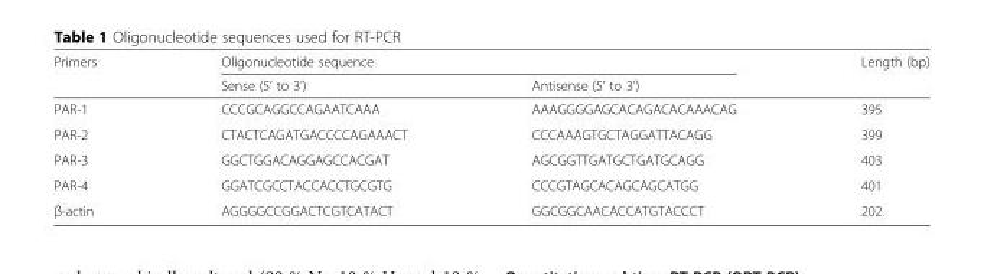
<table><thead><tr><td rowspan="2">Primers</td><td colspan="2">Oligonucleotide sequence</td><td rowspan="2">Length (bp)</td></tr><tr><td>Sense (5’ to 3’)</td><td>Antisense (5’ to 3’)</td></tr></thead><tbody><tr><td>PAR-1</td><td>CCCGCAGGCCAGAATCAAA</td><td>AAAGGGGAGCACAGACACAAACAG</td><td>395</td></tr><tr><td>PAR-2</td><td>CTACTCAGATGACCCCAGAAACT</td><td>CCCAAAGTGCTAGGATTACAGG</td><td>399</td></tr><tr><td>PAR-3</td><td>GGCTGGACAGGAGCCACGAT</td><td>AGCGGTTGATGCTGATGCAGG</td><td>403</td></tr><tr><td>PAR-4</td><td>GGATCGCCTACCACCTGCGTG</td><td>CCCGTAGCACAGCAGCATGG</td><td>401</td></tr><tr><td>β-actin</td><td>AGGGGCCGGACTCGTCATACT</td><td>GGCGGCAACACCATGTACCCT</td><td>202</td></tr></tbody></table>